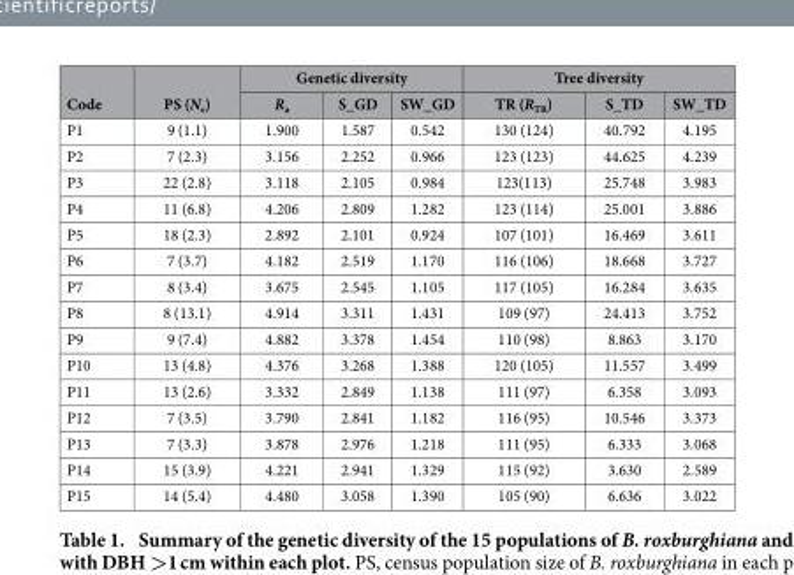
<table><thead><tr><td rowspan="2">Code</td><td rowspan="2">PS (N<sub>e</sub>)</td><td colspan="3">Genetic diversity</td><td colspan="3">Tree diversity</td></tr><tr><td>R<sub>a</sub></td><td>S_GD</td><td>SW_GD</td><td>TR (R<sub>TR</sub>)</td><td>S_TD</td><td>SW_TD</td></tr></thead><tbody><tr><td>P1</td><td>9 (1.1)</td><td>1.900</td><td>1.587</td><td>0.542</td><td>130 (124)</td><td>40.792</td><td>4.195</td></tr><tr><td>P2</td><td>7 (2.3)</td><td>3.156</td><td>2.252</td><td>0.966</td><td>123 (123)</td><td>44.625</td><td>4.239</td></tr><tr><td>P3</td><td>22 (2.8)</td><td>3.118</td><td>2.105</td><td>0.984</td><td>123(113)</td><td>25.748</td><td>3.983</td></tr><tr><td>P4</td><td>11 (6.8)</td><td>4.206</td><td>2.809</td><td>1.282</td><td>123 (114)</td><td>25.001</td><td>3.886</td></tr><tr><td>P5</td><td>18 (2.3)</td><td>2.892</td><td>2.101</td><td>0.924</td><td>107 (101)</td><td>16.469</td><td>3.611</td></tr><tr><td>P6</td><td>7 (3.7)</td><td>4.182</td><td>2.519</td><td>1.170</td><td>116 (106)</td><td>18.668</td><td>3.727</td></tr><tr><td>P7</td><td>8 (3.4)</td><td>3.675</td><td>2.545</td><td>1.105</td><td>117 (105)</td><td>16.284</td><td>3.635</td></tr><tr><td>P8</td><td>8 (13.1)</td><td>4.914</td><td>3.311</td><td>1.431</td><td>109 (97)</td><td>24.413</td><td>3.752</td></tr><tr><td>P9</td><td>9 (7.4)</td><td>4.882</td><td>3.378</td><td>1.454</td><td>110 (98)</td><td>8.863</td><td>3.170</td></tr><tr><td>P10</td><td>13 (4.8)</td><td>4.376</td><td>3.268</td><td>1.388</td><td>120 (105)</td><td>11.557</td><td>3.499</td></tr><tr><td>P11</td><td>13 (2.6)</td><td>3.332</td><td>2.849</td><td>1.138</td><td>111 (97)</td><td>6.358</td><td>3.093</td></tr><tr><td>P12</td><td>7 (3.5)</td><td>3.790</td><td>2.841</td><td>1.182</td><td>116 (95)</td><td>10.546</td><td>3.373</td></tr><tr><td>P13</td><td>7 (3.3)</td><td>3.878</td><td>2.976</td><td>1.218</td><td>111 (95)</td><td>6.333</td><td>3.068</td></tr><tr><td>P14</td><td>15 (3.9)</td><td>4.221</td><td>2.941</td><td>1.329</td><td>115 (92)</td><td>3.630</td><td>2.589</td></tr><tr><td>P15</td><td>14 (5.4)</td><td>4.480</td><td>3.058</td><td>1.390</td><td>105 (90)</td><td>6.636</td><td>3.022</td></tr></tbody></table>